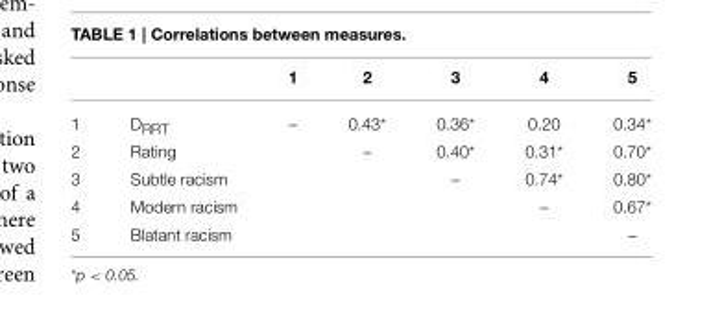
<table><thead><tr><td></td><td></td><td>1</td><td>2</td><td>3</td><td>4</td><td>5</td></tr></thead><tbody><tr><td>1</td><td>D<sub>RRT</sub></td><td>–</td><td>0.43*</td><td>0.36*</td><td>0.20</td><td>0.34*</td></tr><tr><td>2</td><td>Rating</td><td></td><td>–</td><td>0.40*</td><td>0.31*</td><td>0.70*</td></tr><tr><td>3</td><td>Subtle racism</td><td></td><td></td><td>–</td><td>0.74*</td><td>0.80*</td></tr><tr><td>4</td><td>Modern racism</td><td></td><td></td><td></td><td>–</td><td>0.67*</td></tr><tr><td>5</td><td>Blatant racism</td><td></td><td></td><td></td><td></td><td>–</td></tr></tbody></table>